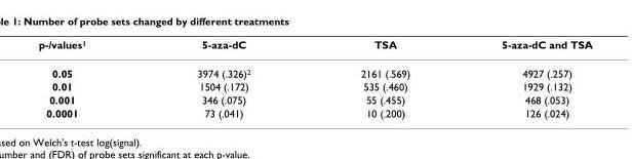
<table><thead><tr><td>p-/values1</td><td>5-aza-dC</td><td>TSA</td><td>5-aza-dC and TSA</td></tr></thead><tbody><tr><td>0.05</td><td>3974 (.326)2</td><td>2161 (.569)</td><td>4927 (.257)</td></tr><tr><td>0.01</td><td>1504 (.172)</td><td>535 (.460)</td><td>1929 (.132)</td></tr><tr><td>0.001</td><td>346 (.075)</td><td>55 (.455)</td><td>468 (.053)</td></tr><tr><td>0.0001</td><td>73 (.041)</td><td>10 (.200)</td><td>126 (.024)</td></tr></tbody></table>